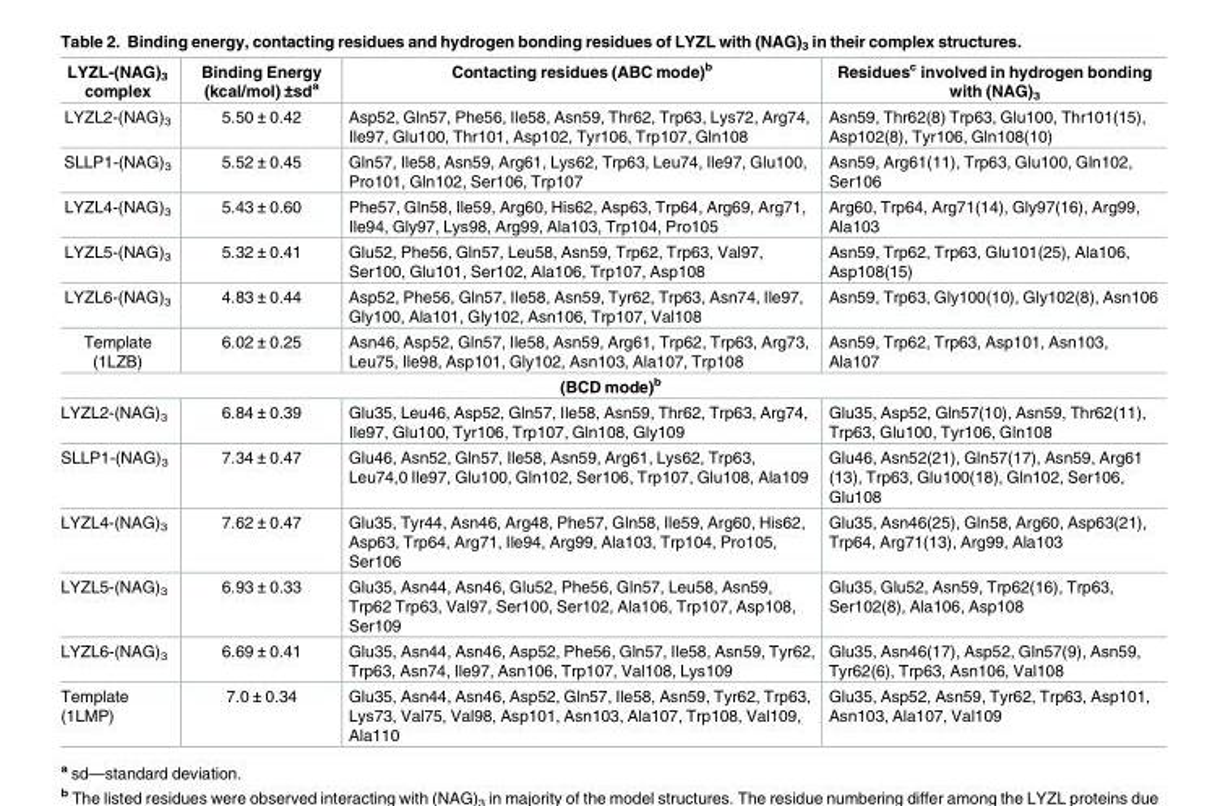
<table><tbody><tr><td>LYZL-(NAG)<sub>3</sub> complex</td><td>Binding Energy (kcal/mol) ±sd<sup>a</sup></td><td>Contacting residues (ABC mode)<sup>b</sup></td><td>Residues<sup>c</sup> involved in hydrogen bonding with (NAG)<sub>3</sub></td></tr><tr><td>LYZL2-(NAG)<sub>3</sub></td><td>5.50 ± 0.42</td><td>Asp52, Gln57, Phe56, Ile58, Asn59, Thr62, Trp63, Lys72, Arg74, Ile97, Glu100, Thr101, Asp102, Tyr106, Trp107, Gln108</td><td>Asn59, Thr62(8) Trp63, Glu100, Thr101(15), Asp102(8), Tyr106, Gln108(10)</td></tr><tr><td>SLLP1-(NAG)<sub>3</sub></td><td>5.52 ± 0.45</td><td>Gln57, Ile58, Asn59, Arg61, Lys62, Trp63, Leu74, Ile97, Glu100, Pro101, Gln102, Ser106, Trp107</td><td>Asn59, Arg61(11), Trp63, Glu100, Gln102, Ser106</td></tr><tr><td>LYZL4-(NAG)<sub>3</sub></td><td>5.43 ± 0.60</td><td>Phe57, Gln58, Ile59, Arg60, His62, Asp63, Trp64, Arg69, Arg71, Ile94, Gly97, Lys98, Arg99, Ala103, Trp104, Pro105</td><td>Arg60, Trp64, Arg71(14), Gly97(16), Arg99, Ala103</td></tr><tr><td>LYZL5-(NAG)<sub>3</sub></td><td>5.32 ± 0.41</td><td>Glu52, Phe56, Gln57, Leu58, Asn59, Trp62, Trp63, Val97, Ser100, Glu101, Ser102, Ala106, Trp107, Asp108</td><td>Asn59, Trp62, Trp63, Glu101(25), Ala106, Asp108(15)</td></tr><tr><td>LYZL6-(NAG)<sub>3</sub></td><td>4.83 ± 0.44</td><td>Asp52, Phe56, Gln57, Ile58, Asn59, Tyr62, Trp63, Asn74, Ile97, Gly100, Ala101, Gly102, Asn106, Trp107, Val108</td><td>Asn59, Trp63, Gly100(10), Gly102(8), Asn106</td></tr><tr><td>Template (1LZB)</td><td>6.02 ± 0.25</td><td>Asn46, Asp52, Gln57, Ile58, Asn59, Arg61, Trp62, Trp63, Arg73, Leu75, Ile98, Asp101, Gly102, Asn103, Ala107, Trp108</td><td>Asn59, Trp62, Trp63, Asp101, Asn103, Ala107</td></tr><tr><td colspan="4">(BCD mode)<sup>b</sup></td></tr><tr><td>LYZL2-(NAG)<sub>3</sub></td><td>6.84 ± 0.39</td><td>Glu35, Leu46, Asp52, Gln57, Ile58, Asn59, Thr62, Trp63, Arg74, Ile97, Glu100, Tyr106, Trp107, Gln108, Gly109</td><td>Glu35, Asp52, Gln57(10), Asn59, Thr62(11), Trp63, Glu100, Tyr106, Gln108</td></tr><tr><td>SLLP1-(NAG)<sub>3</sub></td><td>7.34 ± 0.47</td><td>Glu46, Asn52, Gln57, Ile58, Asn59, Arg61, Lys62, Trp63, Leu74,0 Ile97, Glu100, Gln102, Ser106, Trp107, Glu108, Ala109</td><td>Glu46, Asn52(21), Gln57(17), Asn59, Arg61 (13), Trp63, Glu100(18), Gln102, Ser106, Glu108</td></tr><tr><td>LYZL4-(NAG)<sub>3</sub></td><td>7.62 ± 0.47</td><td>Glu35, Tyr44, Asn46, Arg48, Phe57, Gln58, Ile59, Arg60, His62, Asp63, Trp64, Arg71, Ile94, Arg99, Ala103, Trp104, Pro105, Ser106</td><td>Glu35, Asn46(25), Gln58, Arg60, Asp63(21), Trp64, Arg71(13), Arg99, Ala103</td></tr><tr><td>LYZL5-(NAG)<sub>3</sub></td><td>6.93 ± 0.33</td><td>Glu35, Asn44, Asn46, Glu52, Phe56, Gln57, Leu58, Asn59, Trp62 Trp63, Val97, Ser100, Ser102, Ala106, Trp107, Asp108, Ser109</td><td>Glu35, Glu52, Asn59, Trp62(16), Trp63, Ser102(8), Ala106, Asp108</td></tr><tr><td>LYZL6-(NAG)<sub>3</sub></td><td>6.69 ± 0.41</td><td>Glu35, Asn44, Asn46, Asp52, Phe56, Gln57, Ile58, Asn59, Tyr62, Trp63, Asn74, Ile97, Asn106, Trp107, Val108, Lys109</td><td>Glu35, Asn46(17), Asp52, Gln57(9), Asn59, Tyr62(6), Trp63, Asn106, Val108</td></tr><tr><td>Template (1LMP)</td><td>7.0 ± 0.34</td><td>Glu35, Asn44, Asn46, Asp52, Gln57, Ile58, Asn59, Tyr62, Trp63, Lys73, Val75, Val98, Asp101, Asn103, Ala107, Trp108, Val109, Ala110</td><td>Glu35, Asp52, Asn59, Tyr62, Trp63, Asp101, Asn103, Ala107, Val109</td></tr></tbody></table>